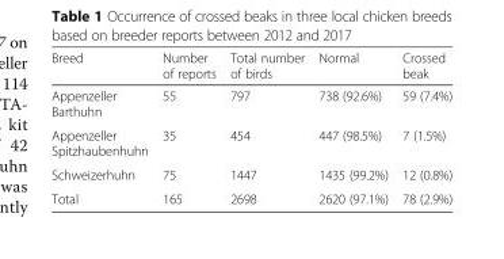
<table><thead><tr><td>Breed</td><td>Number of reports</td><td>Total number of birds</td><td>Normal</td><td>Crossed beak</td></tr></thead><tbody><tr><td>Appenzeller Barthuhn</td><td>55</td><td>797</td><td>738 (92.6%)</td><td>59 (7.4%)</td></tr><tr><td>Appenzeller Spitzhaubenhuhn</td><td>35</td><td>454</td><td>447 (98.5%)</td><td>7 (1.5%)</td></tr><tr><td>Schweizerhuhn</td><td>75</td><td>1447</td><td>1435 (99.2%)</td><td>12 (0.8%)</td></tr><tr><td>Total</td><td>165</td><td>2698</td><td>2620 (97.1%)</td><td>78 (2.9%)</td></tr></tbody></table>